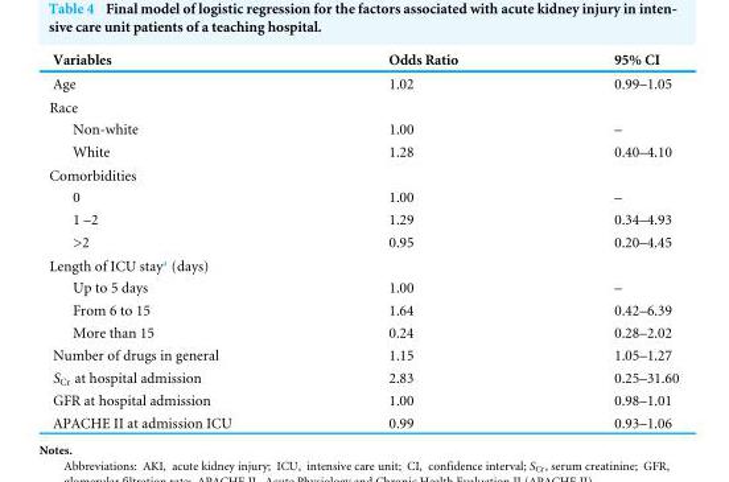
<table><thead><tr><td>Variables</td><td>Odds Ratio</td><td>95% CI</td></tr></thead><tbody><tr><td>Age</td><td>1.02</td><td>0.99–1.05</td></tr><tr><td colspan="3">Race</td></tr><tr><td>Non-white</td><td>1.00</td><td>–</td></tr><tr><td>White</td><td>1.28</td><td>0.40–4.10</td></tr><tr><td colspan="3">Comorbidities</td></tr><tr><td>0</td><td>1.00</td><td>–</td></tr><tr><td>1 –2</td><td>1.29</td><td>0.34–4.93</td></tr><tr><td>&gt;2</td><td>0.95</td><td>0.20–4.45</td></tr><tr><td colspan="3">Length of ICU stay<sup>a</sup> (days)</td></tr><tr><td>Up to 5 days</td><td>1.00</td><td>–</td></tr><tr><td>From 6 to 15</td><td>1.64</td><td>0.42–6.39</td></tr><tr><td>More than 15</td><td>0.24</td><td>0.28–2.02</td></tr><tr><td>Number of drugs in general</td><td>1.15</td><td>1.05–1.27</td></tr><tr><td>S<sub>Cr</sub> at hospital admission</td><td>2.83</td><td>0.25–31.60</td></tr><tr><td>GFR at hospital admission</td><td>1.00</td><td>0.98–1.01</td></tr><tr><td>APACHE II at admission ICU</td><td>0.99</td><td>0.93–1.06</td></tr></tbody></table>